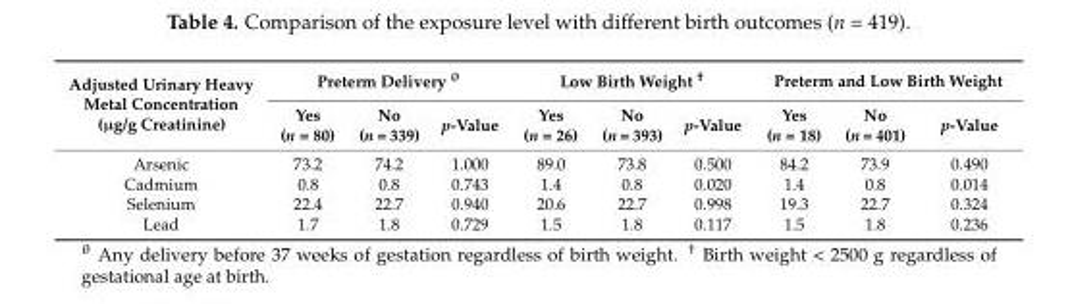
<table><thead><tr><td rowspan="2">Adjusted Urinary Heavy Metal Concentration (µg/g Creatinine)</td><td colspan="3">Preterm Delivery <sup>θ</sup></td><td colspan="3">Low Birth Weight <sup>†</sup></td><td colspan="3">Preterm and Low Birth Weight</td></tr><tr><td>Yes (n = 80)</td><td>No (n = 339)</td><td>p-Value</td><td>Yes (n = 26)</td><td>No (n = 393)</td><td>p-Value</td><td>Yes (n = 18)</td><td>No (n = 401)</td><td>p-Value</td></tr></thead><tbody><tr><td>Arsenic</td><td>73.2</td><td>74.2</td><td>1.000</td><td>89.0</td><td>73.8</td><td>0.500</td><td>84.2</td><td>73.9</td><td>0.490</td></tr><tr><td>Cadmium</td><td>0.8</td><td>0.8</td><td>0.743</td><td>1.4</td><td>0.8</td><td>0.020</td><td>1.4</td><td>0.8</td><td>0.014</td></tr><tr><td>Selenium</td><td>22.4</td><td>22.7</td><td>0.940</td><td>20.6</td><td>22.7</td><td>0.998</td><td>19.3</td><td>22.7</td><td>0.324</td></tr><tr><td>Lead</td><td>1.7</td><td>1.8</td><td>0.729</td><td>1.5</td><td>1.8</td><td>0.117</td><td>1.5</td><td>1.8</td><td>0.236</td></tr></tbody></table>